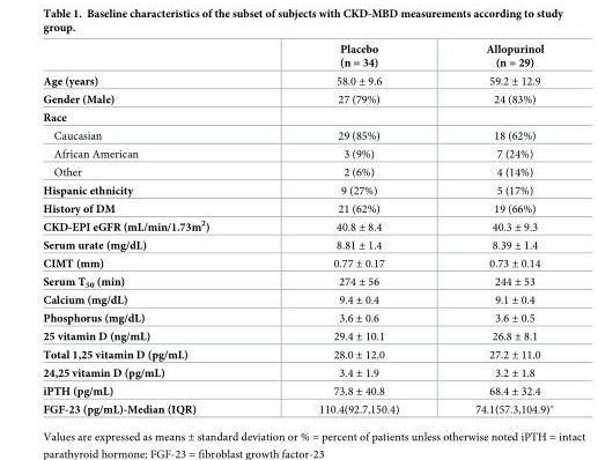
<table><thead><tr><td></td><td>Placebo (n = 34)</td><td>Allopurinol (n = 29)</td></tr></thead><tbody><tr><td>Age (years)</td><td>58.0 ± 9.6</td><td>59.2 ± 12.9</td></tr><tr><td>Gender (Male)</td><td>27 (79%)</td><td>24 (83%)</td></tr><tr><td colspan="3">Race</td></tr><tr><td>Caucasian</td><td>29 (85%)</td><td>18 (62%)</td></tr><tr><td>African American</td><td>3 (9%)</td><td>7 (24%)</td></tr><tr><td>Other</td><td>2 (6%)</td><td>4 (14%)</td></tr><tr><td>Hispanic ethnicity</td><td>9 (27%)</td><td>5 (17%)</td></tr><tr><td>History of DM</td><td>21 (62%)</td><td>19 (66%)</td></tr><tr><td>CKD-EPI eGFR (mL/min/1.73m<sup>2</sup>)</td><td>40.8 ± 8.4</td><td>40.3 ± 9.3</td></tr><tr><td>Serum urate (mg/dL)</td><td>8.81 ± 1.4</td><td>8.39 ± 1.4</td></tr><tr><td>CIMT (mm)</td><td>0.77 ± 0.17</td><td>0.73 ± 0.14</td></tr><tr><td>Serum T<sub>50</sub> (min)</td><td>274 ± 56</td><td>244 ± 53</td></tr><tr><td>Calcium (mg/dL)</td><td>9.4 ± 0.4</td><td>9.1 ± 0.4</td></tr><tr><td>Phosphorus (mg/dL)</td><td>3.6 ± 0.6</td><td>3.6 ± 0.5</td></tr><tr><td>25 vitamin D (ng/mL)</td><td>29.4 ± 10.1</td><td>26.8 ± 8.1</td></tr><tr><td>Total 1,25 vitamin D (pg/mL)</td><td>28.0 ± 12.0</td><td>27.2 ± 11.0</td></tr><tr><td>24,25 vitamin D (pg/mL)</td><td>3.4 ± 1.9</td><td>3.2 ± 1.8</td></tr><tr><td>iPTH (pg/mL)</td><td>73.8 ± 40.8</td><td>68.4 ± 32.4</td></tr><tr><td>FGF-23 (pg/mL)-Median (IQR)</td><td>110.4(92.7,150.4)</td><td>74.1(57.3,104.9)*</td></tr></tbody></table>